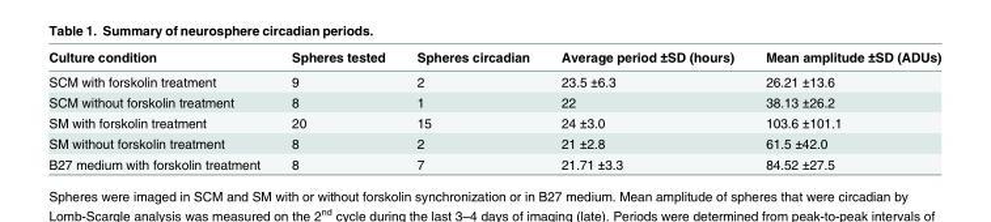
<table><thead><tr><td>Culture condition</td><td>Spheres tested</td><td>Spheres circadian</td><td>Average period ±SD (hours)</td><td>Mean amplitude ±SD (ADUs)</td></tr></thead><tbody><tr><td>SCM with forskolin treatment</td><td>9</td><td>2</td><td>23.5 ±6.3</td><td>26.21 ±13.6</td></tr><tr><td>SCM without forskolin treatment</td><td>8</td><td>1</td><td>22</td><td>38.13 ±26.2</td></tr><tr><td>SM with forskolin treatment</td><td>20</td><td>15</td><td>24 ±3.0</td><td>103.6 ±101.1</td></tr><tr><td>SM without forskolin treatment</td><td>8</td><td>2</td><td>21 ±2.8</td><td>61.5 ±42.0</td></tr><tr><td>B27 medium with forskolin treatment</td><td>8</td><td>7</td><td>21.71 ±3.3</td><td>84.52 ±27.5</td></tr></tbody></table>